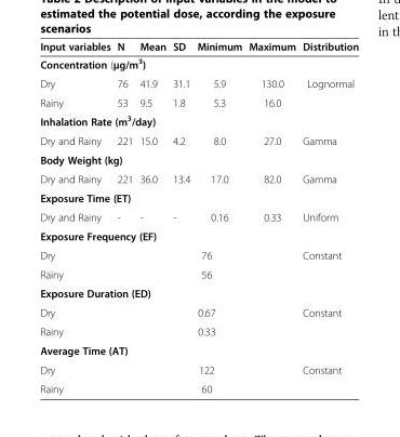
<table><thead><tr><td>Input variables</td><td>N</td><td>Mean</td><td>SD</td><td>Minimum</td><td>Maximum</td><td>Distribution</td></tr></thead><tbody><tr><td colspan="7">Concentration (μg/m<sup>3</sup>)</td></tr><tr><td>Dry</td><td>76</td><td>41.9</td><td>31.1</td><td>5.9</td><td>130.0</td><td rowspan="2">Lognormal</td></tr><tr><td>Rainy</td><td>53</td><td>9.5</td><td>1.8</td><td>5.3</td><td>16.0</td></tr><tr><td colspan="7">Inhalation Rate (m<sup>3</sup>/day)</td></tr><tr><td>Dry and Rainy</td><td>221</td><td>15.0</td><td>4.2</td><td>8.0</td><td>27.0</td><td>Gamma</td></tr><tr><td colspan="7">Body Weight (kg)</td></tr><tr><td>Dry and Rainy</td><td>221</td><td>36.0</td><td>13.4</td><td>17.0</td><td>82.0</td><td>Gamma</td></tr><tr><td colspan="7">Exposure Time (ET)</td></tr><tr><td>Dry and Rainy</td><td>-</td><td>-</td><td>-</td><td>0.16</td><td>0.33</td><td>Uniform</td></tr><tr><td colspan="7">Exposure Frequency (EF)</td></tr><tr><td>Dry</td><td colspan="5">76</td><td rowspan="2">Constant</td></tr><tr><td>Rainy</td><td colspan="5">56</td></tr><tr><td colspan="7">Exposure Duration (ED)</td></tr><tr><td>Dry</td><td colspan="5">0.67</td><td rowspan="2">Constant</td></tr><tr><td>Rainy</td><td colspan="5">0.33</td></tr><tr><td colspan="7">Average Time (AT)</td></tr><tr><td>Dry</td><td colspan="5">122</td><td>Constant</td></tr><tr><td>Rainy</td><td colspan="5">60</td><td></td></tr></tbody></table>